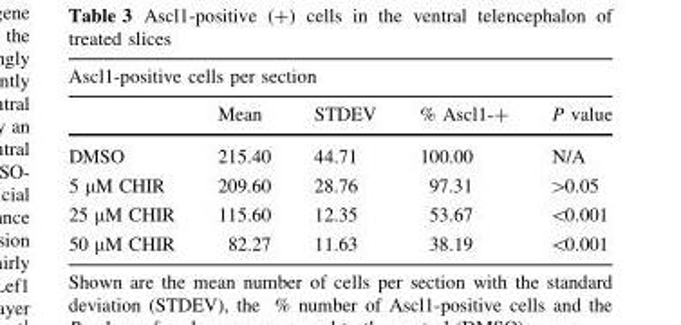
<table><thead><tr><td colspan="5">Ascl1-positive cells per section</td></tr><tr><td></td><td>Mean</td><td>STDEV</td><td>% Ascl1-+</td><td>P value</td></tr></thead><tbody><tr><td>DMSO</td><td>215.40</td><td>44.71</td><td>100.00</td><td>N/A</td></tr><tr><td>5 μM CHIR</td><td>209.60</td><td>28.76</td><td>97.31</td><td>&gt;0.05</td></tr><tr><td>25 μM CHIR</td><td>115.60</td><td>12.35</td><td>53.67</td><td>&lt;0.001</td></tr><tr><td>50 μM CHIR</td><td>82.27</td><td>11.63</td><td>38.19</td><td>&lt;0.001</td></tr></tbody></table>